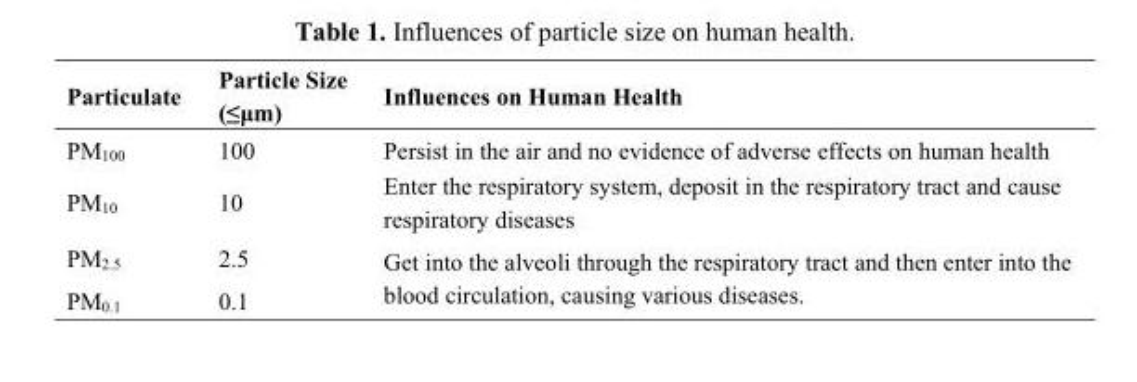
<table><thead><tr><td>Particulate</td><td>Particle Size (≤μm)</td><td>Influences on Human Health</td></tr></thead><tbody><tr><td>PM<sub>100</sub></td><td>100</td><td>Persist in the air and no evidence of adverse effects on human health</td></tr><tr><td>PM<sub>10</sub></td><td>10</td><td>Enter the respiratory system, deposit in the respiratory tract and cause respiratory diseases</td></tr><tr><td>PM<sub>2.5</sub></td><td>2.5</td><td rowspan="2">Get into the alveoli through the respiratory tract and then enter into the blood circulation, causing various diseases.</td></tr><tr><td>PM<sub>0.1</sub></td><td>0.1</td></tr></tbody></table>